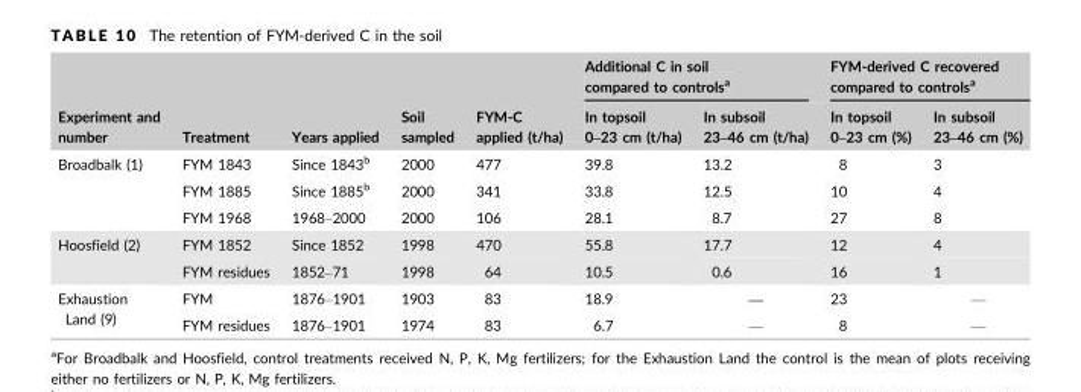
<table><thead><tr><td rowspan="2">Experiment and number</td><td rowspan="2">Treatment</td><td rowspan="2">Years applied</td><td rowspan="2">Soil sampled</td><td rowspan="2">FYM-C applied (t/ha)</td><td colspan="2">Additional C in soil compared to controls<sup>a</sup></td><td colspan="2">FYM-derived C recovered compared to controls<sup>a</sup></td></tr><tr><td>In topsoil 0–23 cm (t/ha)</td><td>In subsoil 23–46 cm (t/ha)</td><td>In topsoil 0–23 cm (%)</td><td>In subsoil 23–46 cm (%)</td></tr></thead><tbody><tr><td rowspan="3">Broadbalk (1)</td><td>FYM 1843</td><td>Since 1843<sup>b</sup></td><td>2000</td><td>477</td><td>39.8</td><td>13.2</td><td>8</td><td>3</td></tr><tr><td>FYM 1885</td><td>Since 1885<sup>b</sup></td><td>2000</td><td>341</td><td>33.8</td><td>12.5</td><td>10</td><td>4</td></tr><tr><td>FYM 1968</td><td>1968–2000</td><td>2000</td><td>106</td><td>28.1</td><td>8.7</td><td>27</td><td>8</td></tr><tr><td rowspan="2">Hoosfield (2)</td><td>FYM 1852</td><td>Since 1852</td><td>1998</td><td>470</td><td>55.8</td><td>17.7</td><td>12</td><td>4</td></tr><tr><td>FYM residues</td><td>1852–71</td><td>1998</td><td>64</td><td>10.5</td><td>0.6</td><td>16</td><td>1</td></tr><tr><td rowspan="2">Exhaustion Land (9)</td><td>FYM</td><td>1876–1901</td><td>1903</td><td>83</td><td>18.9</td><td>—</td><td>23</td><td>—</td></tr><tr><td>FYM residues</td><td>1876–1901</td><td>1974</td><td>83</td><td>6.7</td><td>—</td><td>8</td><td>—</td></tr></tbody></table>